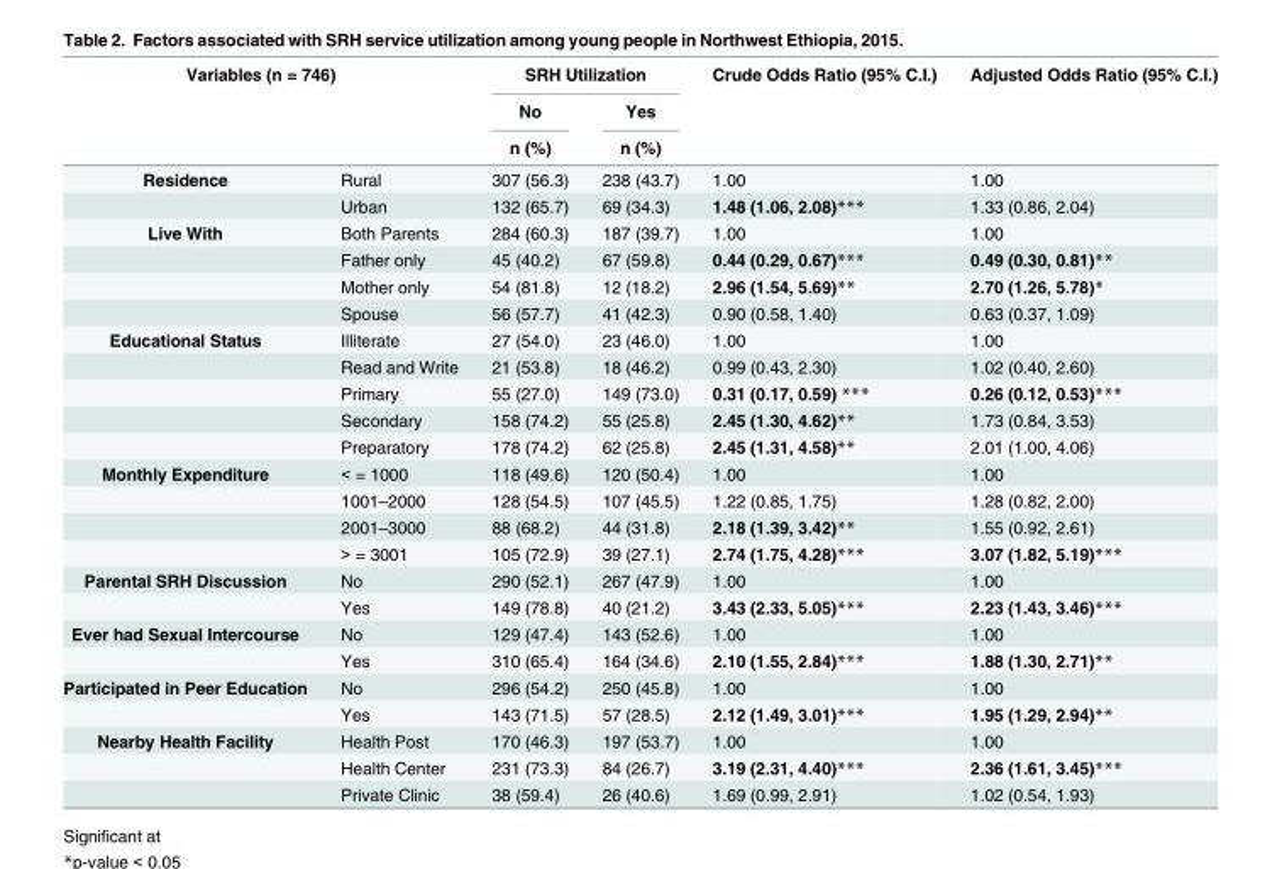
<table><thead><tr><td rowspan="3" colspan="2">Variables (n = 746)</td><td colspan="2">SRH Utilization</td><td rowspan="4">Crude Odds Ratio (95% C.I.) 1.00</td><td rowspan="4">Adjusted Odds Ratio (95% C.I.) 1.00</td></tr><tr><td rowspan="3">No n (%) 307 (56.3)</td><td rowspan="3">Yes n (%) 238 (43.7)</td></tr><tr></tr><tr><td>Residence</td><td>Rural</td></tr></thead><tbody><tr><td></td><td>Urban</td><td>132 (65.7)</td><td>69 (34.3)</td><td>1.48 (1.06, 2.08)***</td><td>1.33 (0.86, 2.04)</td></tr><tr><td rowspan="4">Live With</td><td>Both Parents</td><td>284 (60.3)</td><td>187 (39.7)</td><td>1.00</td><td>1.00</td></tr><tr><td>Father only</td><td>45 (40.2)</td><td>67 (59.8)</td><td>0.44 (0.29, 0.67)***</td><td>0.49 (0.30, 0.81)**</td></tr><tr><td>Mother only</td><td>54 (81.8)</td><td>12 (18.2)</td><td>2.96 (1.54, 5.69)**</td><td>2.70 (1.26, 5.78)*</td></tr><tr><td>Spouse</td><td>56 (57.7)</td><td>41 (42.3)</td><td>0.90 (0.58, 1.40)</td><td>0.63 (0.37, 1.09)</td></tr><tr><td rowspan="5">Educational Status</td><td>Illiterate</td><td>27 (54.0)</td><td>23 (46.0)</td><td>1.00</td><td>1.00</td></tr><tr><td>Read and Write</td><td>21 (53.8)</td><td>18 (46.2)</td><td>0.99 (0.43, 2.30)</td><td>1.02 (0.40, 2.60)</td></tr><tr><td>Primary</td><td>55 (27.0)</td><td>149 (73.0)</td><td>0.31 (0.17, 0.59) ***</td><td>0.26 (0.12, 0.53)***</td></tr><tr><td>Secondary</td><td>158 (74.2)</td><td>55 (25.8)</td><td>2.45 (1.30, 4.62)**</td><td>1.73 (0.84, 3.53)</td></tr><tr><td>Preparatory</td><td>178 (74.2)</td><td>62 (25.8)</td><td>2.45 (1.31, 4.58)**</td><td>2.01 (1.00, 4.06)</td></tr><tr><td rowspan="4">Monthly Expenditure</td><td>&lt; = 1000</td><td>118 (49.6)</td><td>120 (50.4)</td><td>1.00</td><td>1.00</td></tr><tr><td>1001–2000</td><td>128 (54.5)</td><td>107 (45.5)</td><td>1.22 (0.85, 1.75)</td><td>1.28 (0.82, 2.00)</td></tr><tr><td>2001–3000</td><td>88 (68.2)</td><td>44 (31.8)</td><td>2.18 (1.39, 3.42)**</td><td>1.55 (0.92, 2.61)</td></tr><tr><td>&gt; = 3001</td><td>105 (72.9)</td><td>39 (27.1)</td><td>2.74 (1.75, 4.28)***</td><td>3.07 (1.82, 5.19)***</td></tr><tr><td rowspan="2">Parental SRH Discussion</td><td>No</td><td>290 (52.1)</td><td>267 (47.9)</td><td>1.00</td><td>1.00</td></tr><tr><td>Yes</td><td>149 (78.8)</td><td>40 (21.2)</td><td>3.43 (2.33, 5.05)***</td><td>2.23 (1.43, 3.46)***</td></tr><tr><td rowspan="2">Ever had Sexual Intercourse</td><td>No</td><td>129 (47.4)</td><td>143 (52.6)</td><td>1.00</td><td>1.00</td></tr><tr><td>Yes</td><td>310 (65.4)</td><td>164 (34.6)</td><td>2.10 (1.55, 2.84)***</td><td>1.88 (1.30, 2.71)**</td></tr><tr><td rowspan="2">Participated in Peer Education</td><td>No</td><td>296 (54.2)</td><td>250 (45.8)</td><td>1.00</td><td>1.00</td></tr><tr><td>Yes</td><td>143 (71.5)</td><td>57 (28.5)</td><td>2.12 (1.49, 3.01)***</td><td>1.95 (1.29, 2.94)**</td></tr><tr><td rowspan="3">Nearby Health Facility</td><td>Health Post</td><td>170 (46.3)</td><td>197 (53.7)</td><td>1.00</td><td>1.00</td></tr><tr><td>Health Center</td><td>231 (73.3)</td><td>84 (26.7)</td><td>3.19 (2.31, 4.40)***</td><td>2.36 (1.61, 3.45)***</td></tr><tr><td>Private Clinic</td><td>38 (59.4)</td><td>26 (40.6)</td><td>1.69 (0.99, 2.91)</td><td>1.02 (0.54, 1.93)</td></tr></tbody></table>